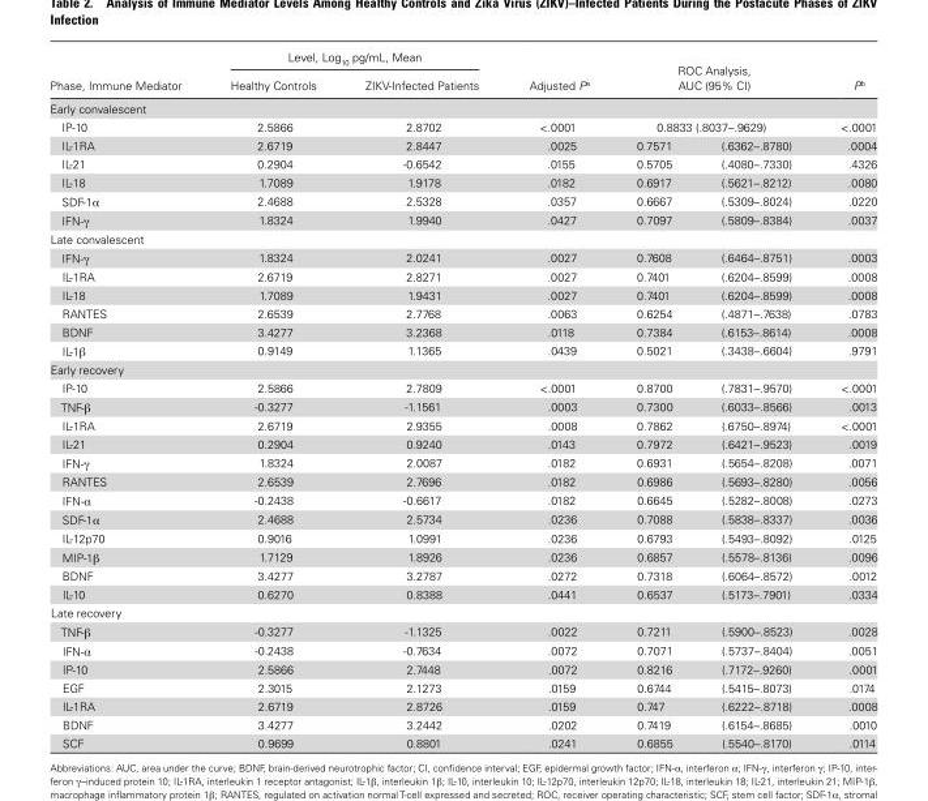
<table><thead><tr><td rowspan="2">Phase, Immune Mediator</td><td colspan="2">Level, Log<sub>10</sub> pg/mL, Mean</td><td rowspan="2">Adjusted P<sup>a</sup></td><td rowspan="2" colspan="2">ROC Analysis, AUC (95% CI)</td><td rowspan="2">P<sup>b</sup></td></tr><tr><td>Healthy Controls</td><td>ZIKV-Infected Patients</td></tr><tr><td colspan="7">Early convalescent</td></tr><tr><td rowspan="2">IP-10 IL-1RA</td><td rowspan="2">2.5866 2.6719</td><td rowspan="2">2.8702 2.8447</td><td rowspan="2">&lt;.0001 .0025</td><td colspan="2">0.8833 (.8037–.9629)</td><td rowspan="2">&lt;.0001 .0004</td></tr><tr><td>0.7571</td><td>(.6362–.8780)</td></tr></thead><tbody><tr><td>IL-21</td><td>0.2904</td><td>-0.6542</td><td>.0155</td><td>0.5705</td><td>(.4080–.7330)</td><td>.4326</td></tr><tr><td>IL-18</td><td>1.7089</td><td>1.9178</td><td>.0182</td><td>0.6917</td><td>(.5621–.8212)</td><td>.0080</td></tr><tr><td>SDF-1α</td><td>2.4688</td><td>2.5328</td><td>.0357</td><td>0.6667</td><td>(.5309–.8024)</td><td>.0220</td></tr><tr><td>IFN-γ</td><td>1.8324</td><td>1.9940</td><td>.0427</td><td>0.7097</td><td>(.5809–.8384)</td><td>.0037</td></tr><tr><td colspan="7">Late convalescent</td></tr><tr><td>IFN-γ</td><td>1.8324</td><td>2.0241</td><td>.0027</td><td>0.7608</td><td>(.6464–.8751)</td><td>.0003</td></tr><tr><td>IL-1RA</td><td>2.6719</td><td>2.8271</td><td>.0027</td><td>0.7401</td><td>(.6204–.8599)</td><td>.0008</td></tr><tr><td>IL-18</td><td>1.7089</td><td>1.9431</td><td>.0027</td><td>0.7401</td><td>(.6204–.8599)</td><td>.0008</td></tr><tr><td>RANTES</td><td>2.6539</td><td>2.7768</td><td>.0063</td><td>0.6254</td><td>(.4871–.7638)</td><td>.0783</td></tr><tr><td>BDNF</td><td>3.4277</td><td>3.2368</td><td>.0118</td><td>0.7384</td><td>(.6153–.8614)</td><td>.0008</td></tr><tr><td>IL-1β</td><td>0.9149</td><td>1.1365</td><td>.0439</td><td>0.5021</td><td>(.3438–.6604)</td><td>.9791</td></tr><tr><td colspan="7">Early recovery</td></tr><tr><td>IP-10</td><td>2.5866</td><td>2.7809</td><td>&lt;.0001</td><td>0.8700</td><td>(.7831–.9570)</td><td>&lt;.0001</td></tr><tr><td>TNF-β</td><td>-0.3277</td><td>-1.1561</td><td>.0003</td><td>0.7300</td><td>(.6033–.8566)</td><td>.0013</td></tr><tr><td>IL-1RA</td><td>2.6719</td><td>2.9355</td><td>.0008</td><td>0.7862</td><td>(.6750–.8974)</td><td>&lt;.0001</td></tr><tr><td>IL-21</td><td>0.2904</td><td>0.9240</td><td>.0143</td><td>0.7972</td><td>(.6421–.9523)</td><td>.0019</td></tr><tr><td>IFN-γ</td><td>1.8324</td><td>2.0087</td><td>.0182</td><td>0.6931</td><td>(.5654–.8208)</td><td>.0071</td></tr><tr><td>RANTES</td><td>2.6539</td><td>2.7696</td><td>.0182</td><td>0.6986</td><td>(.5693–.8280)</td><td>.0056</td></tr><tr><td>IFN-α</td><td>-0.2438</td><td>-0.6617</td><td>.0182</td><td>0.6645</td><td>(.5282–.8008)</td><td>.0273</td></tr><tr><td>SDF-1α</td><td>2.4688</td><td>2.5734</td><td>.0236</td><td>0.7088</td><td>(.5838–.8337)</td><td>.0036</td></tr><tr><td>IL-12p70</td><td>0.9016</td><td>1.0991</td><td>.0236</td><td>0.6793</td><td>(.5493–.8092)</td><td>.0125</td></tr><tr><td>MIP-1β</td><td>1.7129</td><td>1.8926</td><td>.0236</td><td>0.6857</td><td>(.5578–.8136)</td><td>.0096</td></tr><tr><td>BDNF</td><td>3.4277</td><td>3.2787</td><td>.0272</td><td>0.7318</td><td>(.6064–.8572)</td><td>.0012</td></tr><tr><td>IL-10</td><td>0.6270</td><td>0.8388</td><td>.0441</td><td>0.6537</td><td>(.5173–.7901)</td><td>.0334</td></tr><tr><td colspan="7">Late recovery</td></tr><tr><td>TNF-β</td><td>-0.3277</td><td>-1.1325</td><td>.0022</td><td>0.7211</td><td>(.5900–.8523)</td><td>.0028</td></tr><tr><td>IFN-α</td><td>-0.2438</td><td>-0.7634</td><td>.0072</td><td>0.7071</td><td>(.5737–.8404)</td><td>.0051</td></tr><tr><td>IP-10</td><td>2.5866</td><td>2.7448</td><td>.0072</td><td>0.8216</td><td>(.7172–.9260)</td><td>.0001</td></tr><tr><td>EGF</td><td>2.3015</td><td>2.1273</td><td>.0159</td><td>0.6744</td><td>(.5415–.8073)</td><td>.0174</td></tr><tr><td>IL-1RA</td><td>2.6719</td><td>2.8726</td><td>.0159</td><td>0.747</td><td>(.6222–.8718)</td><td>.0008</td></tr><tr><td>BDNF</td><td>3.4277</td><td>3.2442</td><td>.0202</td><td>0.7419</td><td>(.6154–.8685)</td><td>.0010</td></tr><tr><td>SCF</td><td>0.9699</td><td>0.8801</td><td>.0241</td><td>0.6855</td><td>(.5540–.8170)</td><td>.0114</td></tr></tbody></table>